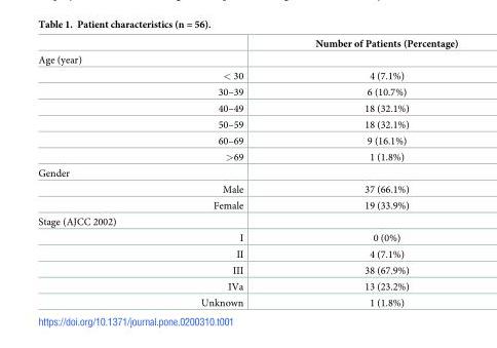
<table><thead><tr><td></td><td>Number of Patients (Percentage)</td></tr></thead><tbody><tr><td colspan="2">Age (year)</td></tr><tr><td>&lt; 30</td><td>4 (7.1%)</td></tr><tr><td>30–39</td><td>6 (10.7%)</td></tr><tr><td>40–49</td><td>18 (32.1%)</td></tr><tr><td>50–59</td><td>18 (32.1%)</td></tr><tr><td>60–69</td><td>9 (16.1%)</td></tr><tr><td>&gt;69</td><td>1 (1.8%)</td></tr><tr><td colspan="2">Gender</td></tr><tr><td>Male</td><td>37 (66.1%)</td></tr><tr><td>Female</td><td>19 (33.9%)</td></tr><tr><td colspan="2">Stage (AJCC 2002)</td></tr><tr><td>I</td><td>0 (0%)</td></tr><tr><td>II</td><td>4 (7.1%)</td></tr><tr><td>III</td><td>38 (67.9%)</td></tr><tr><td>IVa</td><td>13 (23.2%)</td></tr><tr><td>Unknown</td><td>1 (1.8%)</td></tr></tbody></table>